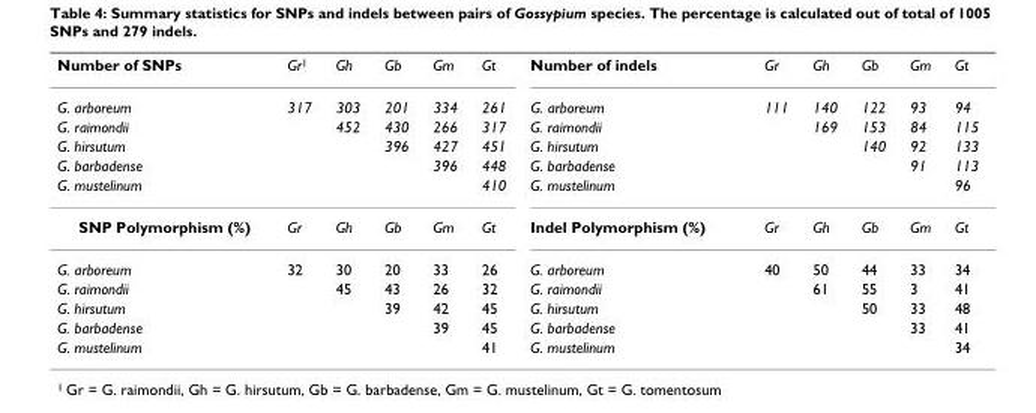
<table><tbody><tr><td>Number of SNPs</td><td>Gr<sup>1</sup></td><td>Gh</td><td>Gb</td><td>Gm</td><td>Gt</td><td>Number of indels</td><td>Gr</td><td>Gh</td><td>Gb</td><td>Gm</td><td>Gt</td></tr><tr><td>G. arboreum</td><td>317</td><td>303</td><td>201</td><td>334</td><td>261</td><td>G. arboreum</td><td>111</td><td>140</td><td>122</td><td>93</td><td>94</td></tr><tr><td>G. raimondii</td><td></td><td>452</td><td>430</td><td>266</td><td>317</td><td>G. raimondii</td><td></td><td>169</td><td>153</td><td>84</td><td>115</td></tr><tr><td>G. hirsutum</td><td></td><td></td><td>396</td><td>427</td><td>451</td><td>G. hirsutum</td><td></td><td></td><td>140</td><td>92</td><td>133</td></tr><tr><td>G. barbadense</td><td></td><td></td><td></td><td>396</td><td>448</td><td>G. barbadense</td><td></td><td></td><td></td><td>91</td><td>113</td></tr><tr><td>G. mustelinum</td><td></td><td></td><td></td><td></td><td>410</td><td>G. mustelinum</td><td></td><td></td><td></td><td></td><td>96</td></tr><tr><td>SNP Polymorphism (%)</td><td>Gr</td><td>Gh</td><td>Gb</td><td>Gm</td><td>Gt</td><td>Indel Polymorphism (%)</td><td>Gr</td><td>Gh</td><td>Gb</td><td>Gm</td><td>Gt</td></tr><tr><td>G. arboreum</td><td>32</td><td>30</td><td>20</td><td>33</td><td>26</td><td>G. arboreum</td><td>40</td><td>50</td><td>44</td><td>33</td><td>34</td></tr><tr><td>G. raimondii</td><td></td><td>45</td><td>43</td><td>26</td><td>32</td><td>G. raimondii</td><td></td><td>61</td><td>55</td><td>3</td><td>41</td></tr><tr><td>G. hirsutum</td><td></td><td></td><td>39</td><td>42</td><td>45</td><td>G. hirsutum</td><td></td><td></td><td>50</td><td>33</td><td>48</td></tr><tr><td>G. barbadense</td><td></td><td></td><td></td><td>39</td><td>45</td><td>G. barbadense</td><td></td><td></td><td></td><td>33</td><td>41</td></tr><tr><td>G. mustelinum</td><td></td><td></td><td></td><td></td><td>41</td><td>G. mustelinum</td><td></td><td></td><td></td><td></td><td>34</td></tr></tbody></table>